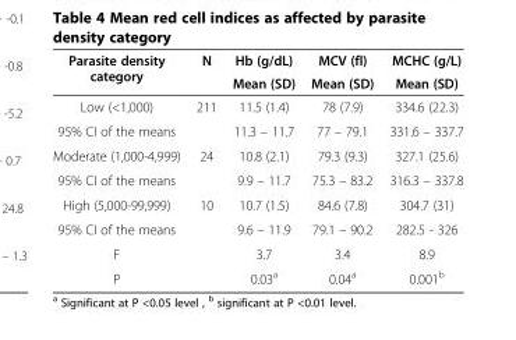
<table><thead><tr><td rowspan="2">Parasite density category</td><td rowspan="2">N</td><td rowspan="2">Hb (g/dL) Mean (SD)</td><td rowspan="2">MCV (fl) Mean (SD)</td><td rowspan="2">MCHC (g/L) Mean (SD)</td></tr><tr></tr></thead><tbody><tr><td>Low (&lt;1,000)</td><td>211</td><td>11.5 (1.4)</td><td>78 (7.9)</td><td>334.6 (22.3)</td></tr><tr><td>95% CI of the means</td><td></td><td>11.3 – 11.7</td><td>77 – 79.1</td><td>331.6 – 337.7</td></tr><tr><td>Moderate (1,000-4,999)</td><td>24</td><td>10.8 (2.1)</td><td>79.3 (9.3)</td><td>327.1 (25.6)</td></tr><tr><td>95% CI of the means</td><td></td><td>9.9 – 11.7</td><td>75.3 – 83.2</td><td>316.3 – 337.8</td></tr><tr><td>High (5,000-99,999)</td><td>10</td><td>10.7 (1.5)</td><td>84.6 (7.8)</td><td>304.7 (31)</td></tr><tr><td>95% CI of the means</td><td></td><td>9.6 – 11.9</td><td>79.1 – 90.2</td><td>282.5 - 326</td></tr><tr><td>F</td><td></td><td>3.7</td><td>3.4</td><td>8.9</td></tr><tr><td>P</td><td></td><td>0.03<sup>a</sup></td><td>0.04<sup>a</sup></td><td>0.001<sup>b</sup></td></tr></tbody></table>